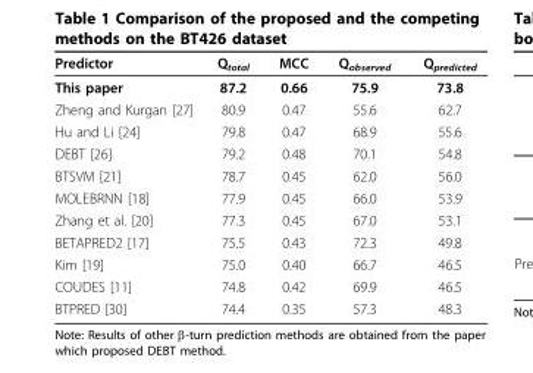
<table><thead><tr><td>Predictor</td><td>Q<sub>total</sub></td><td>MCC</td><td>Q<sub>observed</sub></td><td>Q<sub>predicted</sub></td></tr></thead><tbody><tr><td>This paper</td><td>87.2</td><td>0.66</td><td>75.9</td><td>73.8</td></tr><tr><td>Zheng and Kurgan [27]</td><td>80.9</td><td>0.47</td><td>55.6</td><td>62.7</td></tr><tr><td>Hu and Li [24]</td><td>79.8</td><td>0.47</td><td>68.9</td><td>55.6</td></tr><tr><td>DEBT [26]</td><td>79.2</td><td>0.48</td><td>70.1</td><td>54.8</td></tr><tr><td>BTSVM [21]</td><td>78.7</td><td>0.45</td><td>62.0</td><td>56.0</td></tr><tr><td>MOLEBRNN [18]</td><td>77.9</td><td>0.45</td><td>66.0</td><td>53.9</td></tr><tr><td>Zhang et al. [20]</td><td>77.3</td><td>0.45</td><td>67.0</td><td>53.1</td></tr><tr><td>BETAPRED2 [17]</td><td>75.5</td><td>0.43</td><td>72.3</td><td>49.8</td></tr><tr><td>Kim [19]</td><td>75.0</td><td>0.40</td><td>66.7</td><td>46.5</td></tr><tr><td>COUDES [11]</td><td>74.8</td><td>0.42</td><td>69.9</td><td>46.5</td></tr><tr><td>BTPRED [30]</td><td>74.4</td><td>0.35</td><td>57.3</td><td>48.3</td></tr></tbody></table>